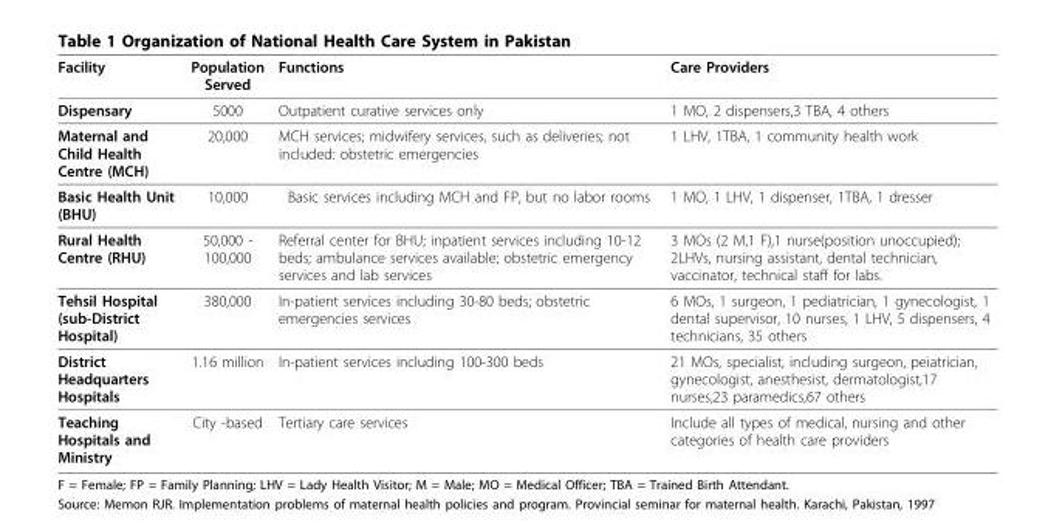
<table><thead><tr><td>Facility</td><td>Population Served</td><td>Functions</td><td>Care Providers</td></tr></thead><tbody><tr><td>Dispensary</td><td>5000</td><td>Outpatient curative services only</td><td>1 MO, 2 dispensers,3 TBA, 4 others</td></tr><tr><td>Maternal and Child Health Centre (MCH)</td><td>20,000</td><td>MCH services; midwifery services, such as deliveries; not included: obstetric emergencies</td><td>1 LHV, 1TBA, 1 community health work</td></tr><tr><td>Basic Health Unit (BHU)</td><td>10,000</td><td>Basic services including MCH and FP, but no labor rooms</td><td>1 MO, 1 LHV, 1 dispenser, 1TBA, 1 dresser</td></tr><tr><td>Rural Health Centre (RHU)</td><td>50,000 - 100,000</td><td>Referral center for BHU; inpatient services including 10-12 beds; ambulance services available; obstetric emergency services and lab services</td><td>3 MOs (2 M,1 F),1 nurse(position unoccupied); 2LHVs, nursing assistant, dental technician, vaccinator, technical staff for labs.</td></tr><tr><td>Tehsil Hospital (sub-District Hospital)</td><td>380,000</td><td>In-patient services including 30-80 beds; obstetric emergencies services</td><td>6 MOs, 1 surgeon, 1 pediatrician, 1 gynecologist, 1 dental supervisor, 10 nurses, 1 LHV, 5 dispensers, 4 technicians, 35 others</td></tr><tr><td>District Headquarters Hospitals</td><td>1.16 million</td><td>In-patient services including 100-300 beds</td><td>21 MOs, specialist, including surgeon, peiatrician, gynecologist, anesthesist, dermatologist,17 nurses,23 paramedics,67 others</td></tr><tr><td>Teaching Hospitals and Ministry</td><td>City -based</td><td>Tertiary care services</td><td>Include all types of medical, nursing and other categories of health care providers</td></tr></tbody></table>